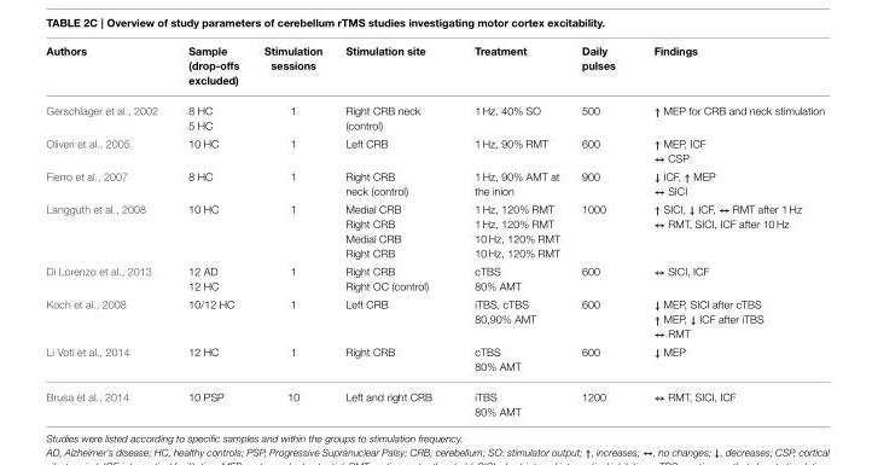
<table><thead><tr><td>Authors</td><td>Sample (drop-offs excluded)</td><td>Stimulation sessions</td><td>Stimulation site</td><td>Treatment</td><td>Daily pulses</td><td>Findings</td></tr></thead><tbody><tr><td>Gerschlager et al., 2002</td><td>8 HC 5 HC</td><td>1</td><td>Right CRB neck (control)</td><td>1 Hz, 40% SO</td><td>500</td><td>↑ MEP for CRB and neck stimulation</td></tr><tr><td>Oliveri et al., 2005</td><td>10 HC</td><td>1</td><td>Left CRB</td><td>1 Hz, 90% RMT</td><td>600</td><td>↑ MEP, ICF ↔ CSP</td></tr><tr><td>Fierro et al., 2007</td><td>8 HC</td><td>1</td><td>Right CRB neck (control)</td><td>1 Hz, 90% AMT at the inion</td><td>900</td><td>↓ ICF, ↑ MEP ↔ SICI</td></tr><tr><td>Langguth et al., 2008</td><td>10 HC</td><td>1</td><td>Medial CRB Right CRB Medial CRB Right CRB</td><td>1 Hz, 120% RMT 1 Hz, 120% RMT 10 Hz, 120% RMT 10 Hz, 120% RMT</td><td>1000</td><td>↑ SICI, ↓ ICF, ↔ RMT after 1 Hz ↔ RMT, SICI, ICF after 10 Hz</td></tr><tr><td>Di Lorenzo et al., 2013</td><td>12 AD 12 HC</td><td>1</td><td>Right CRB Right OC (control)</td><td>cTBS 80% AMT</td><td>600</td><td>↔ SICI, ICF</td></tr><tr><td>Koch et al., 2008</td><td>10/12 HC</td><td>1</td><td>Left CRB</td><td>iTBS, cTBS 80,90% AMT</td><td>600</td><td>↓ MEP, SICI after cTBS ↑ MEP, ↓ ICF after iTBS ↔ RMT</td></tr><tr><td>Li Voti et al., 2014</td><td>12 HC</td><td>1</td><td>Right CRB</td><td>cTBS 80% AMT</td><td>600</td><td>↓ MEP</td></tr><tr><td>Brusa et al., 2014</td><td>10 PSP</td><td>10</td><td>Left and right CRB</td><td>iTBS 80% AMT</td><td>1200</td><td>↔ RMT, SICI, ICF</td></tr></tbody></table>